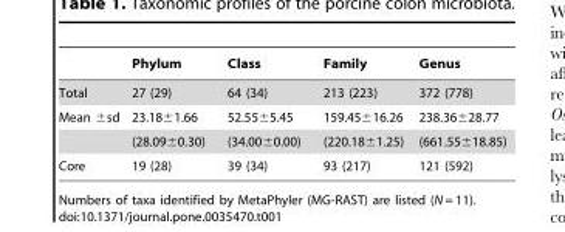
<table><thead><tr><td></td><td>Phylum</td><td>Class</td><td>Family</td><td>Genus</td></tr></thead><tbody><tr><td>Total</td><td>27 (29)</td><td>64 (34)</td><td>213 (223)</td><td>372 (778)</td></tr><tr><td rowspan="2">Mean ±sd</td><td>23.18±1.66</td><td>52.55±5.45</td><td>159.45±16.26</td><td>238.36±28.77</td></tr><tr><td>(28.09±0.30)</td><td>(34.00±0.00)</td><td>(220.18±1.25)</td><td>(661.55±18.85)</td></tr><tr><td>Core</td><td>19 (28)</td><td>39 (34)</td><td>93 (217)</td><td>121 (592)</td></tr></tbody></table>